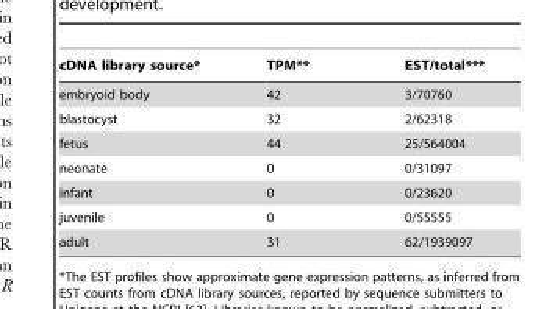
<table><thead><tr><td>cDNA library source*</td><td>TPM**</td><td>EST/total***</td></tr></thead><tbody><tr><td>embryoid body</td><td>42</td><td>3/70760</td></tr><tr><td>blastocyst</td><td>32</td><td>2/62318</td></tr><tr><td>fetus</td><td>44</td><td>25/564004</td></tr><tr><td>neonate</td><td>0</td><td>0/31097</td></tr><tr><td>infant</td><td>0</td><td>0/23620</td></tr><tr><td>juvenile</td><td>0</td><td>0/55555</td></tr><tr><td>adult</td><td>31</td><td>62/1939097</td></tr></tbody></table>